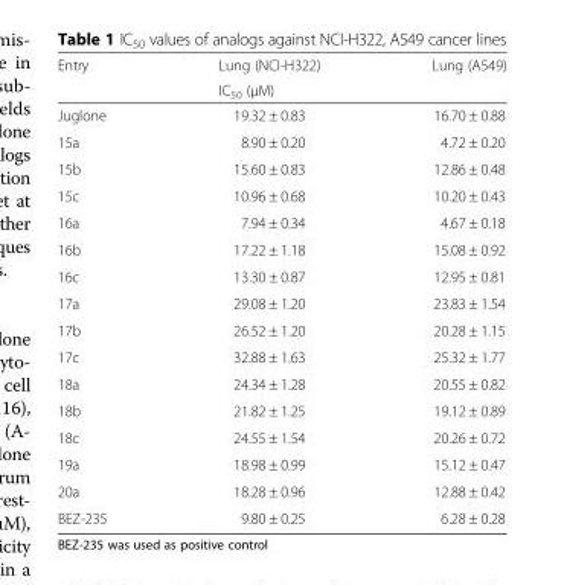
<table><thead><tr><td rowspan="2">Entry</td><td>Lung (NCI-H322)</td><td>Lung (A549)</td></tr><tr><td colspan="2">IC<sub>50</sub> (μM)</td></tr></thead><tbody><tr><td>Juglone</td><td>19.32 ± 0.83</td><td>16.70 ± 0.88</td></tr><tr><td>15a</td><td>8.90 ± 0.20</td><td>4.72 ± 0.20</td></tr><tr><td>15b</td><td>15.60 ± 0.83</td><td>12.86 ± 0.48</td></tr><tr><td>15c</td><td>10.96 ± 0.68</td><td>10.20 ± 0.43</td></tr><tr><td>16a</td><td>7.94 ± 0.34</td><td>4.67 ± 0.18</td></tr><tr><td>16b</td><td>17.22 ± 1.18</td><td>15.08 ± 0.92</td></tr><tr><td>16c</td><td>13.30 ± 0.87</td><td>12.95 ± 0.81</td></tr><tr><td>17a</td><td>29.08 ± 1.20</td><td>23.83 ± 1.54</td></tr><tr><td>17b</td><td>26.52 ± 1.20</td><td>20.28 ± 1.15</td></tr><tr><td>17c</td><td>32.88 ± 1.63</td><td>25.32 ± 1.77</td></tr><tr><td>18a</td><td>24.34 ± 1.28</td><td>20.55 ± 0.82</td></tr><tr><td>18b</td><td>21.82 ± 1.25</td><td>19.12 ± 0.89</td></tr><tr><td>18c</td><td>24.55 ± 1.54</td><td>20.26 ± 0.72</td></tr><tr><td>19a</td><td>18.98 ± 0.99</td><td>15.12 ± 0.47</td></tr><tr><td>20a</td><td>18.28 ± 0.96</td><td>12.88 ± 0.42</td></tr><tr><td>BEZ-235</td><td>9.80 ± 0.25</td><td>6.28 ± 0.28</td></tr></tbody></table>